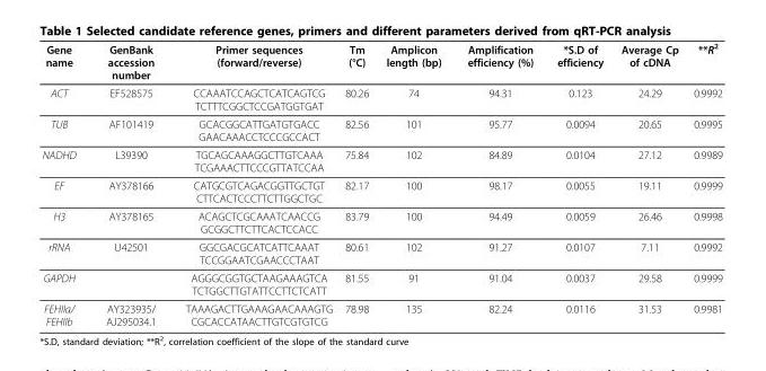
<table><thead><tr><td>Gene name</td><td>GenBank accession number</td><td>Primer sequences (forward/reverse)</td><td>Tm (°C)</td><td>Amplicon length (bp)</td><td>Amplification efficiency (%)</td><td>*S.D of efficiency</td><td>Average Cp of cDNA</td><td>**R<sup>2</sup></td></tr></thead><tbody><tr><td>ACT</td><td>EF528575</td><td>CCAAATCCAGCTCATCAGTCG TCTTTCGGCTCCGATGGTGAT</td><td>80.26</td><td>74</td><td>94.31</td><td>0.123</td><td>24.29</td><td>0.9992</td></tr><tr><td>TUB</td><td>AF101419</td><td>GCACGGCATTGATGTGACC GAACAAACCTCCCGCCACT</td><td>82.56</td><td>101</td><td>95.77</td><td>0.0094</td><td>20.65</td><td>0.9995</td></tr><tr><td>NADHD</td><td>L39390</td><td>TGCAGCAAAGGCTTGTCAAA TCGAAACTTCCCGTTATCCAA</td><td>75.84</td><td>102</td><td>84.89</td><td>0.0104</td><td>27.12</td><td>0.9989</td></tr><tr><td>EF</td><td>AY378166</td><td>CATGCGTCAGACGGTTGCTGT CTTCACTCCCTTCTTGGCTGC</td><td>82.17</td><td>100</td><td>98.17</td><td>0.0055</td><td>19.11</td><td>0.9999</td></tr><tr><td>H3</td><td>AY378165</td><td>ACAGCTCGCAAATCAACCG GCGGCTTCTTCACTCCACC</td><td>83.79</td><td>100</td><td>94.49</td><td>0.0059</td><td>26.46</td><td>0.9998</td></tr><tr><td>rRNA</td><td>U42501</td><td>GGCGACGCATCATTCAAAT TCCGGAATCGAACCCTAAT</td><td>80.61</td><td>102</td><td>91.27</td><td>0.0107</td><td>7.11</td><td>0.9992</td></tr><tr><td>GAPDH</td><td></td><td>AGGGCGGTGCTAAGAAAGTCA TCTGGCTTGTATTCCTTCTCATT</td><td>81.55</td><td>91</td><td>91.04</td><td>0.0037</td><td>29.58</td><td>0.9999</td></tr><tr><td>FEHIIa/ FEHIIb</td><td>AY323935/ AJ295034.1</td><td>TAAAGACTTGAAAGAACAAAGTG CGCACCATAACTTGTCGTGTCG</td><td>78.98</td><td>135</td><td>82.24</td><td>0.0116</td><td>31.53</td><td>0.9981</td></tr></tbody></table>